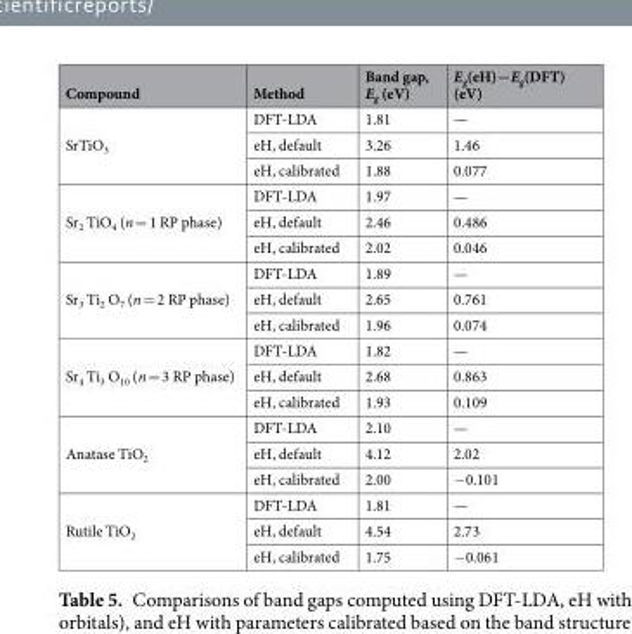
<table><thead><tr><td>Compound</td><td>Method</td><td>Band gap, E<sub>g</sub> (eV)</td><td>E<sub>g</sub>(eH)−E<sub>g</sub>(DFT) (eV)</td></tr></thead><tbody><tr><td rowspan="3">SrTiO<sub>3</sub></td><td>DFT-LDA</td><td>1.81</td><td>—</td></tr><tr><td>eH, default</td><td>3.26</td><td>1.46</td></tr><tr><td>eH, calibrated</td><td>1.88</td><td>0.077</td></tr><tr><td rowspan="3">Sr<sub>2</sub> TiO<sub>4</sub> (n = 1 RP phase)</td><td>DFT-LDA</td><td>1.97</td><td>—</td></tr><tr><td>eH, default</td><td>2.46</td><td>0.486</td></tr><tr><td>eH, calibrated</td><td>2.02</td><td>0.046</td></tr><tr><td rowspan="3">Sr<sub>3</sub> Ti<sub>2</sub> O<sub>7</sub> (n = 2 RP phase)</td><td>DFT-LDA</td><td>1.89</td><td>—</td></tr><tr><td>eH, default</td><td>2.65</td><td>0.761</td></tr><tr><td>eH, calibrated</td><td>1.96</td><td>0.074</td></tr><tr><td rowspan="3">Sr<sub>4</sub> Ti<sub>3</sub> O<sub>10</sub> (n = 3 RP phase)</td><td>DFT-LDA</td><td>1.82</td><td>—</td></tr><tr><td>eH, default</td><td>2.68</td><td>0.863</td></tr><tr><td>eH, calibrated</td><td>1.93</td><td>0.109</td></tr><tr><td rowspan="3">Anatase TiO<sub>2</sub></td><td>DFT-LDA</td><td>2.10</td><td>—</td></tr><tr><td>eH, default</td><td>4.12</td><td>2.02</td></tr><tr><td>eH, calibrated</td><td>2.00</td><td>−0.101</td></tr><tr><td rowspan="3">Rutile TiO<sub>2</sub></td><td>DFT-LDA</td><td>1.81</td><td>—</td></tr><tr><td>eH, default</td><td>4.54</td><td>2.73</td></tr><tr><td>eH, calibrated</td><td>1.75</td><td>−0.061</td></tr></tbody></table>